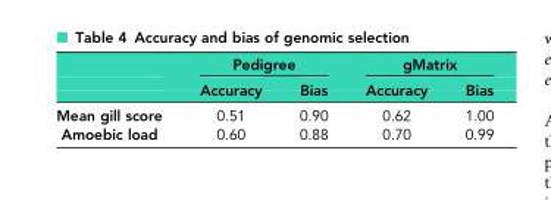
<table><thead><tr><td rowspan="2"></td><td colspan="2">Pedigree</td><td colspan="2">gMatrix</td></tr><tr><td>Accuracy</td><td>Bias</td><td>Accuracy</td><td>Bias</td></tr></thead><tbody><tr><td>Mean gill score</td><td>0.51</td><td>0.90</td><td>0.62</td><td>1.00</td></tr><tr><td>Amoebic load</td><td>0.60</td><td>0.88</td><td>0.70</td><td>0.99</td></tr></tbody></table>